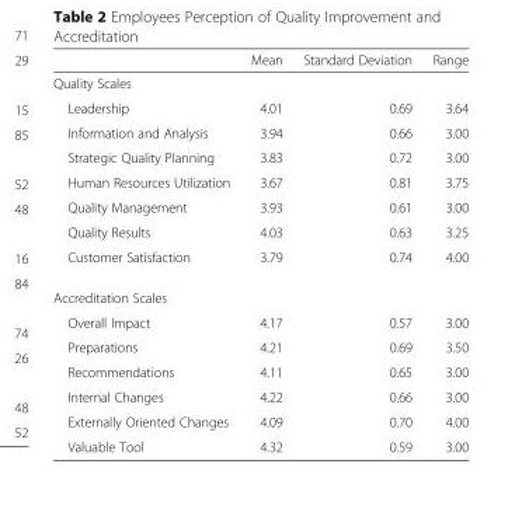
<table><thead><tr><td></td><td>Mean</td><td>Standard Deviation</td><td>Range</td></tr></thead><tbody><tr><td colspan="4">Quality Scales</td></tr><tr><td>Leadership</td><td>4.01</td><td>0.69</td><td>3.64</td></tr><tr><td>Information and Analysis</td><td>3.94</td><td>0.66</td><td>3.00</td></tr><tr><td>Strategic Quality Planning</td><td>3.83</td><td>0.72</td><td>3.00</td></tr><tr><td>Human Resources Utilization</td><td>3.67</td><td>0.81</td><td>3.75</td></tr><tr><td>Quality Management</td><td>3.93</td><td>0.61</td><td>3.00</td></tr><tr><td>Quality Results</td><td>4.03</td><td>0.63</td><td>3.25</td></tr><tr><td>Customer Satisfaction</td><td>3.79</td><td>0.74</td><td>4.00</td></tr><tr><td colspan="4">Accreditation Scales</td></tr><tr><td>Overall Impact</td><td>4.17</td><td>0.57</td><td>3.00</td></tr><tr><td>Preparations</td><td>4.21</td><td>0.69</td><td>3.50</td></tr><tr><td>Recommendations</td><td>4.11</td><td>0.65</td><td>3.00</td></tr><tr><td>Internal Changes</td><td>4.22</td><td>0.66</td><td>3.00</td></tr><tr><td>Externally Oriented Changes</td><td>4.09</td><td>0.70</td><td>4.00</td></tr><tr><td>Valuable Tool</td><td>4.32</td><td>0.59</td><td>3.00</td></tr></tbody></table>